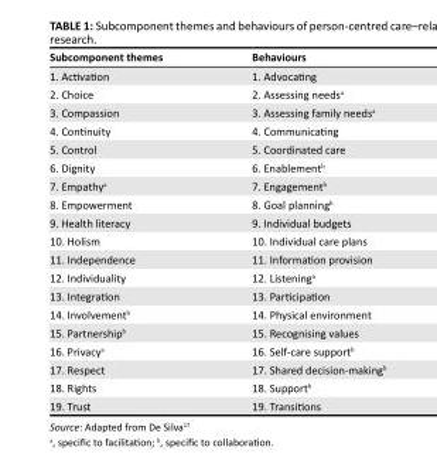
<table><thead><tr><td>Subcomponent themes</td><td>Behaviours</td></tr></thead><tbody><tr><td>1. Activation</td><td>1. Advocating</td></tr><tr><td>2. Choice</td><td>2. Assessing needs<sup>a</sup></td></tr><tr><td>3. Compassion</td><td>3. Assessing family needs<sup>a</sup></td></tr><tr><td>4. Continuity</td><td>4. Communicating</td></tr><tr><td>5. Control</td><td>5. Coordinated care</td></tr><tr><td>6. Dignity</td><td>6. Enablement<sup>b</sup></td></tr><tr><td>7. Empathy<sup>a</sup></td><td>7. Engagement<sup>b</sup></td></tr><tr><td>8. Empowerment</td><td>8. Goal planning<sup>b</sup></td></tr><tr><td>9. Health literacy</td><td>9. Individual budgets</td></tr><tr><td>10. Holism</td><td>10. Individual care plans</td></tr><tr><td>11. Independence</td><td>11. Information provision</td></tr><tr><td>12. Individuality</td><td>12. Listening<sup>a</sup></td></tr><tr><td>13. Integration</td><td>13. Participation</td></tr><tr><td>14. Involvement<sup>b</sup></td><td>14. Physical environment</td></tr><tr><td>15. Partnership<sup>b</sup></td><td>15. Recognising values</td></tr><tr><td>16. Privacy<sup>a</sup></td><td>16. Self-care support<sup>b</sup></td></tr><tr><td>17. Respect</td><td>17. Shared decision-making<sup>b</sup></td></tr><tr><td>18. Rights</td><td>18. Support<sup>b</sup></td></tr><tr><td>19. Trust</td><td>19. Transitions</td></tr></tbody></table>